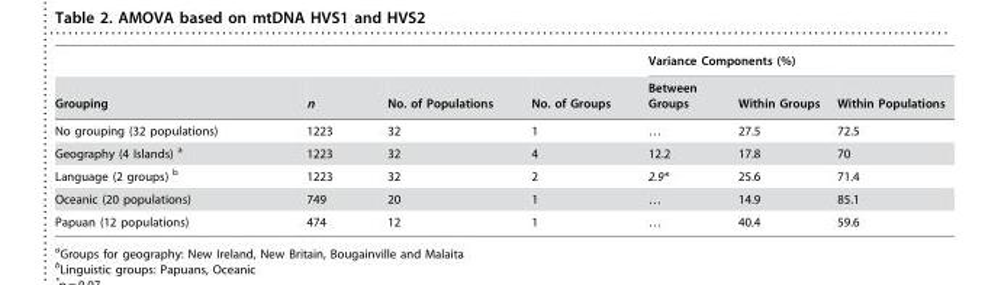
<table><thead><tr><td rowspan="2">Grouping</td><td rowspan="2">n</td><td rowspan="2">No. of Populations</td><td rowspan="2">No. of Groups</td><td colspan="3">Variance Components (%)</td></tr><tr><td>Between Groups</td><td>Within Groups</td><td>Within Populations</td></tr></thead><tbody><tr><td>No grouping (32 populations)</td><td>1223</td><td>32</td><td>1</td><td>…</td><td>27.5</td><td>72.5</td></tr><tr><td>Geography (4 Islands) <sup>a</sup></td><td>1223</td><td>32</td><td>4</td><td>12.2</td><td>17.8</td><td>70</td></tr><tr><td>Language (2 groups) <sup>b</sup></td><td>1223</td><td>32</td><td>2</td><td>2.9*</td><td>25.6</td><td>71.4</td></tr><tr><td>Oceanic (20 populations)</td><td>749</td><td>20</td><td>1</td><td>…</td><td>14.9</td><td>85.1</td></tr><tr><td>Papuan (12 populations)</td><td>474</td><td>12</td><td>1</td><td>…</td><td>40.4</td><td>59.6</td></tr></tbody></table>